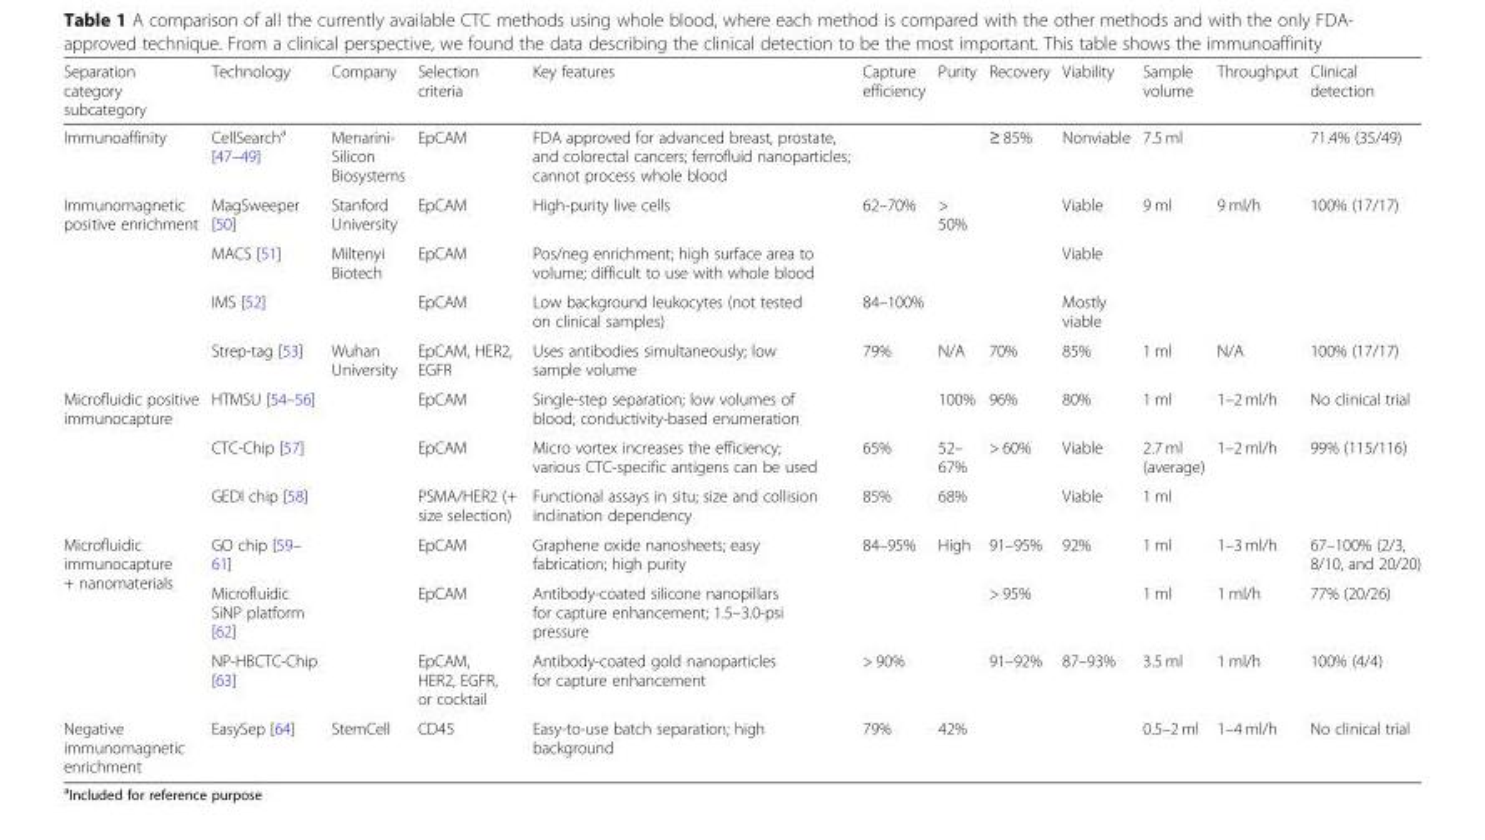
<table><thead><tr><td>Separation category subcategory</td><td>Technology</td><td>Company</td><td>Selection criteria</td><td>Key features</td><td>Capture efficiency</td><td>Purity</td><td>Recovery</td><td>Viability</td><td>Sample volume</td><td>Throughput</td><td>Clinical detection</td></tr></thead><tbody><tr><td>Immunoaffinity</td><td>CellSearch<sup>a</sup> [47–49]</td><td>Menarini- Silicon Biosystems</td><td>EpCAM</td><td>FDA approved for advanced breast, prostate, and colorectal cancers; ferrofluid nanoparticles; cannot process whole blood</td><td></td><td></td><td>≥ 85%</td><td>Nonviable</td><td>7.5 ml</td><td></td><td>71.4% (35/49)</td></tr><tr><td rowspan="4">Immunomagnetic positive enrichment</td><td>MagSweeper [50]</td><td>Stanford University</td><td>EpCAM</td><td>High-purity live cells</td><td>62–70%</td><td>&gt; 50%</td><td></td><td>Viable</td><td>9 ml</td><td>9 ml/h</td><td>100% (17/17)</td></tr><tr><td>MACS [51]</td><td>Miltenyi Biotech</td><td>EpCAM</td><td>Pos/neg enrichment; high surface area to volume; difficult to use with whole blood</td><td></td><td></td><td></td><td>Viable</td><td></td><td></td><td></td></tr><tr><td>IMS [52]</td><td></td><td>EpCAM</td><td>Low background leukocytes (not tested on clinical samples)</td><td>84–100%</td><td></td><td></td><td>Mostly viable</td><td></td><td></td><td></td></tr><tr><td>Strep-tag [53]</td><td>Wuhan University</td><td>EpCAM, HER2, EGFR</td><td>Uses antibodies simultaneously; low sample volume</td><td>79%</td><td>N/A</td><td>70%</td><td>85%</td><td>1 ml</td><td>N/A</td><td>100% (17/17)</td></tr><tr><td rowspan="3">Microfluidic positive immunocapture</td><td>HTMSU [54–56]</td><td></td><td>EpCAM</td><td>Single-step separation; low volumes of blood; conductivity-based enumeration</td><td></td><td>100%</td><td>96%</td><td>80%</td><td>1 ml</td><td>1–2 ml/h</td><td>No clinical trial</td></tr><tr><td>CTC-Chip [57]</td><td></td><td>EpCAM</td><td>Micro vortex increases the efficiency; various CTC-specific antigens can be used</td><td>65%</td><td>52– 67%</td><td>&gt; 60%</td><td>Viable</td><td>2.7 ml (average)</td><td>1–2 ml/h</td><td>99% (115/116)</td></tr><tr><td>GEDI chip [58]</td><td></td><td>PSMA/HER2 (+ size selection)</td><td>Functional assays in situ; size and collision inclination dependency</td><td>85%</td><td>68%</td><td></td><td>Viable</td><td>1 ml</td><td></td><td></td></tr><tr><td rowspan="3">Microfluidic immunocapture + nanomaterials</td><td>GO chip [59– 61]</td><td></td><td>EpCAM</td><td>Graphene oxide nanosheets; easy fabrication; high purity</td><td>84–95%</td><td>High</td><td>91–95%</td><td>92%</td><td>1 ml</td><td>1–3 ml/h</td><td>67–100% (2/3, 8/10, and 20/20)</td></tr><tr><td>Microfluidic SiNP platform [62]</td><td></td><td>EpCAM</td><td>Antibody-coated silicone nanopillars for capture enhancement; 1.5–3.0-psi pressure</td><td></td><td></td><td>&gt; 95%</td><td></td><td>1 ml</td><td>1 ml/h</td><td>77% (20/26)</td></tr><tr><td>NP-HBCTC-Chip [63]</td><td></td><td>EpCAM, HER2, EGFR, or cocktail</td><td>Antibody-coated gold nanoparticles for capture enhancement</td><td>&gt; 90%</td><td></td><td>91–92%</td><td>87–93%</td><td>3.5 ml</td><td>1 ml/h</td><td>100% (4/4)</td></tr><tr><td>Negative immunomagnetic enrichment</td><td>EasySep [64]</td><td>StemCell</td><td>CD45</td><td>Easy-to-use batch separation; high background</td><td>79%</td><td>42%</td><td></td><td></td><td>0.5–2 ml</td><td>1–4 ml/h</td><td>No clinical trial</td></tr></tbody></table>